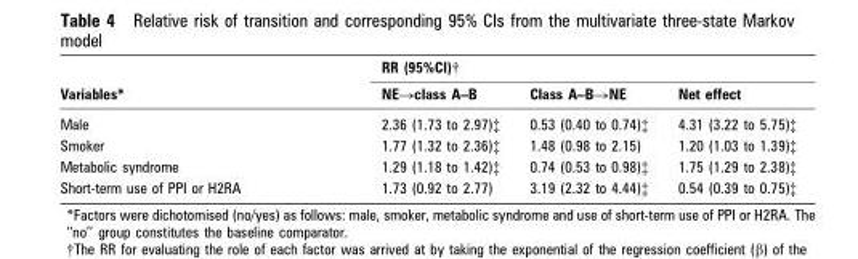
<table><thead><tr><td rowspan="2">Variables*</td><td colspan="3">RR (95%CI)†</td></tr><tr><td>NE→class A–B</td><td>Class A–B→NE</td><td>Net effect</td></tr></thead><tbody><tr><td>Male</td><td>2.36 (1.73 to 2.97)‡</td><td>0.53 (0.40 to 0.74)‡</td><td>4.31 (3.22 to 5.75)‡</td></tr><tr><td>Smoker</td><td>1.77 (1.32 to 2.36)‡</td><td>1.48 (0.98 to 2.15)</td><td>1.20 (1.03 to 1.39)‡</td></tr><tr><td>Metabolic syndrome</td><td>1.29 (1.18 to 1.42)‡</td><td>0.74 (0.53 to 0.98)‡</td><td>1.75 (1.29 to 2.38)‡</td></tr><tr><td>Short-term use of PPI or H2RA</td><td>1.73 (0.92 to 2.77)</td><td>3.19 (2.32 to 4.44)‡</td><td>0.54 (0.39 to 0.75)‡</td></tr></tbody></table>